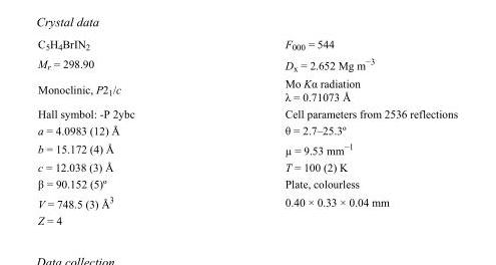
<table><tbody><tr><td>C<sub>5</sub>H<sub>4</sub>BrIN<sub>2</sub></td><td>F000 = 544</td></tr><tr><td>M<sub>r</sub> = 298.90</td><td>D<sub>x</sub> = 2.652 Mg m<sup>−3</sup></td></tr><tr><td>Monoclinic, P2<sub>1</sub>/c</td><td>Mo Kα radiation λ = 0.71073 Å</td></tr><tr><td>Hall symbol: -P 2ybc</td><td>Cell parameters from 2536 reflections</td></tr><tr><td>a = 4.0983 (12) Å</td><td>θ = 2.7–25.3º</td></tr><tr><td>b = 15.172 (4) Å</td><td>µ = 9.53 mm<sup>−1</sup></td></tr><tr><td>c = 12.038 (3) Å</td><td>T = 100 (2) K</td></tr><tr><td>β = 90.152 (5)º</td><td>Plate, colourless</td></tr><tr><td>V = 748.5 (3) Å<sup>3</sup></td><td>0.40 × 0.33 × 0.04 mm</td></tr><tr><td>Z = 4</td><td></td></tr></tbody></table>